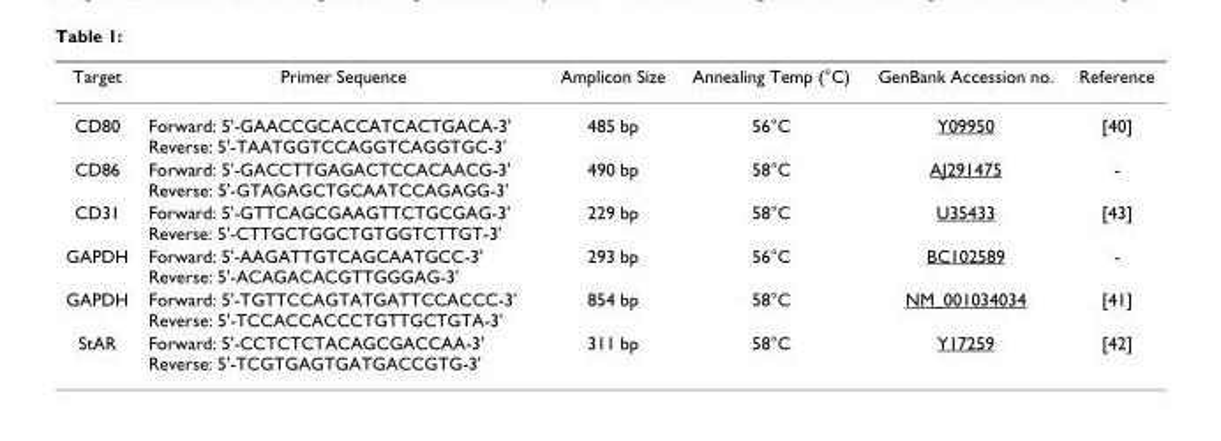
<table><thead><tr><td>Target</td><td>Primer Sequence</td><td>Amplicon Size</td><td>Annealing Temp (°C)</td><td>GenBank Accession no.</td><td>Reference</td></tr></thead><tbody><tr><td>CD80</td><td>Forward: 5&#x27;-GAACCGCACCATCACTGACA-3&#x27; Reverse: 5&#x27;-TAATGGTCCAGGTCAGGTGC-3&#x27;</td><td>485 bp</td><td>56°C</td><td>Y09950</td><td>[40]</td></tr><tr><td>CD86</td><td>Forward: 5&#x27;-GACCTTGAGACTCCACAACG-3&#x27; Reverse: 5&#x27;-GTAGAGCTGCAATCCAGAGG-3&#x27;</td><td>490 bp</td><td>58°C</td><td>AJ291475</td><td>-</td></tr><tr><td>CD31</td><td>Forward: 5&#x27;-GTTCAGCGAAGTTCTGCGAG-3&#x27; Reverse: 5&#x27;-CTTGCTGGCTGTGGTCTTGT-3&#x27;</td><td>229 bp</td><td>58°C</td><td>U35433</td><td>[43]</td></tr><tr><td>GAPDH</td><td>Forward: 5&#x27;-AAGATTGTCAGCAATGCC-3&#x27; Reverse: 5&#x27;-ACAGACACGTTGGGAG-3&#x27;</td><td>293 bp</td><td>56°C</td><td>BC102589</td><td>-</td></tr><tr><td>GAPDH</td><td>Forward: 5&#x27;-TGTTCCAGTATGATTCCACCC-3&#x27; Reverse: 5&#x27;-TCCACCACCCTGTTGCTGTA-3&#x27;</td><td>854 bp</td><td>58°C</td><td>NM_001034034</td><td>[41]</td></tr><tr><td>StAR</td><td>Forward: 5&#x27;-CCTCTCTACAGCGACCAA-3&#x27; Reverse: 5&#x27;-TCGTGAGTGATGACCGTG-3&#x27;</td><td>311 bp</td><td>58°C</td><td>Y17259</td><td>[42]</td></tr></tbody></table>